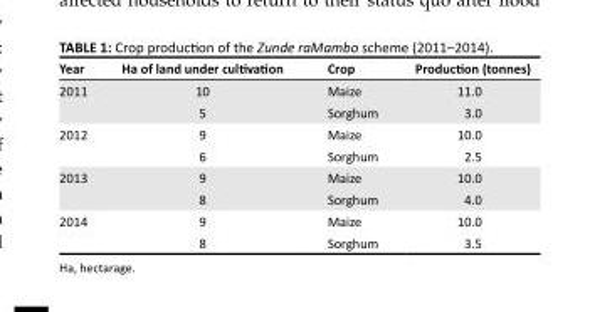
<table><thead><tr><td>Year</td><td>Ha of land under cultivation</td><td>Crop</td><td>Production (tonnes)</td></tr></thead><tbody><tr><td rowspan="2">2011</td><td>10</td><td>Maize</td><td>11.0</td></tr><tr><td>5</td><td>Sorghum</td><td>3.0</td></tr><tr><td rowspan="2">2012</td><td>9</td><td>Maize</td><td>10.0</td></tr><tr><td>6</td><td>Sorghum</td><td>2.5</td></tr><tr><td rowspan="2">2013</td><td>9</td><td>Maize</td><td>10.0</td></tr><tr><td>8</td><td>Sorghum</td><td>4.0</td></tr><tr><td rowspan="2">2014</td><td>9</td><td>Maize</td><td>10.0</td></tr><tr><td>8</td><td>Sorghum</td><td>3.5</td></tr></tbody></table>